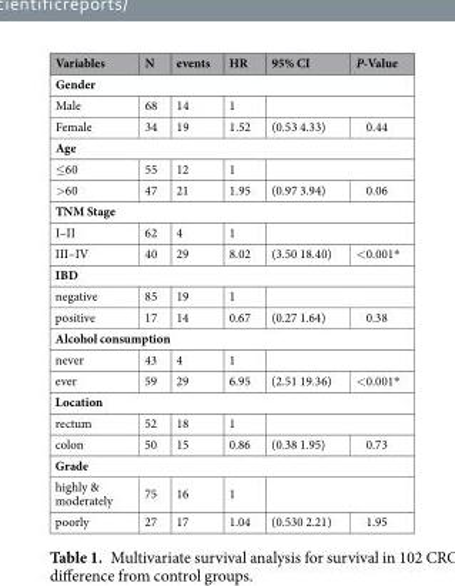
<table><thead><tr><td>Variables</td><td>N</td><td>events</td><td>HR</td><td>95% CI</td><td>P-Value</td></tr></thead><tbody><tr><td colspan="6">Gender</td></tr><tr><td>Male</td><td>68</td><td>14</td><td>1</td><td colspan="2"></td></tr><tr><td>Female</td><td>34</td><td>19</td><td>1.52</td><td>(0.53 4.33)</td><td>0.44</td></tr><tr><td colspan="6">Age</td></tr><tr><td>≤60</td><td>55</td><td>12</td><td>1</td><td colspan="2"></td></tr><tr><td>&gt;60</td><td>47</td><td>21</td><td>1.95</td><td>(0.97 3.94)</td><td>0.06</td></tr><tr><td colspan="6">TNM Stage</td></tr><tr><td>I–II</td><td>62</td><td>4</td><td>1</td><td colspan="2"></td></tr><tr><td>III–IV</td><td>40</td><td>29</td><td>8.02</td><td>(3.50 18.40)</td><td>&lt;0.001*</td></tr><tr><td colspan="6">IBD</td></tr><tr><td>negative</td><td>85</td><td>19</td><td>1</td><td colspan="2"></td></tr><tr><td>positive</td><td>17</td><td>14</td><td>0.67</td><td>(0.27 1.64)</td><td>0.38</td></tr><tr><td colspan="6">Alcohol consumption</td></tr><tr><td>never</td><td>43</td><td>4</td><td>1</td><td colspan="2"></td></tr><tr><td>ever</td><td>59</td><td>29</td><td>6.95</td><td>(2.51 19.36)</td><td>&lt;0.001*</td></tr><tr><td colspan="6">Location</td></tr><tr><td>rectum</td><td>52</td><td>18</td><td>1</td><td colspan="2"></td></tr><tr><td>colon</td><td>50</td><td>15</td><td>0.86</td><td>(0.38 1.95)</td><td>0.73</td></tr><tr><td colspan="6">Grade</td></tr><tr><td>highly &amp; moderately</td><td>75</td><td>16</td><td>1</td><td colspan="2"></td></tr><tr><td>poorly</td><td>27</td><td>17</td><td>1.04</td><td>(0.530 2.21)</td><td>1.95</td></tr></tbody></table>